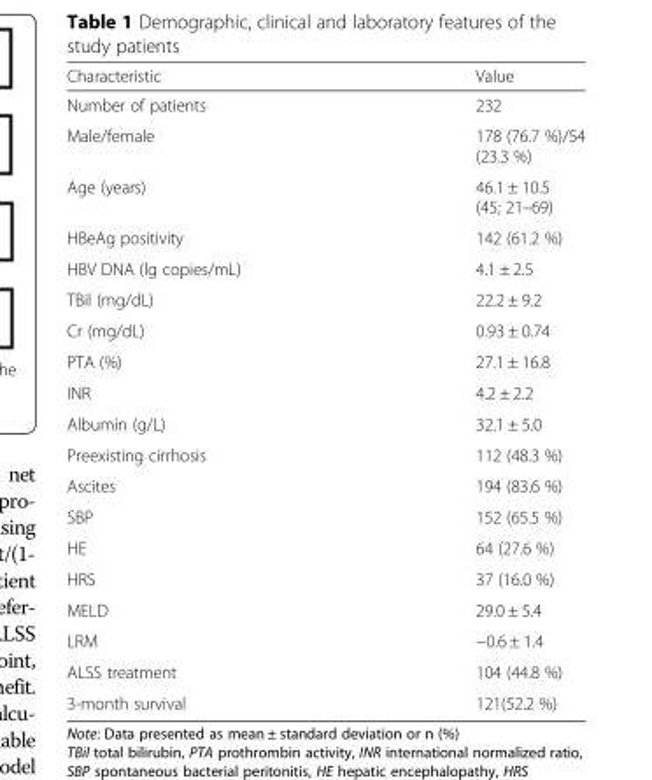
<table><thead><tr><td>Characteristic</td><td>Value</td></tr></thead><tbody><tr><td>Number of patients</td><td>232</td></tr><tr><td>Male/female</td><td>178 (76.7 %)/54 (23.3 %)</td></tr><tr><td>Age (years)</td><td>46.1 ± 10.5 (45; 21–69)</td></tr><tr><td>HBeAg positivity</td><td>142 (61.2 %)</td></tr><tr><td>HBV DNA (lg copies/mL)</td><td>4.1 ± 2.5</td></tr><tr><td>TBil (mg/dL)</td><td>22.2 ± 9.2</td></tr><tr><td>Cr (mg/dL)</td><td>0.93 ± 0.74</td></tr><tr><td>PTA (%)</td><td>27.1 ± 16.8</td></tr><tr><td>INR</td><td>4.2 ± 2.2</td></tr><tr><td>Albumin (g/L)</td><td>32.1 ± 5.0</td></tr><tr><td>Preexisting cirrhosis</td><td>112 (48.3 %)</td></tr><tr><td>Ascites</td><td>194 (83.6 %)</td></tr><tr><td>SBP</td><td>152 (65.5 %)</td></tr><tr><td>HE</td><td>64 (27.6 %)</td></tr><tr><td>HRS</td><td>37 (16.0 %)</td></tr><tr><td>MELD</td><td>29.0 ± 5.4</td></tr><tr><td>LRM</td><td>−0.6 ± 1.4</td></tr><tr><td>ALSS treatment</td><td>104 (44.8 %)</td></tr><tr><td>3-month survival</td><td>121(52.2 %)</td></tr></tbody></table>